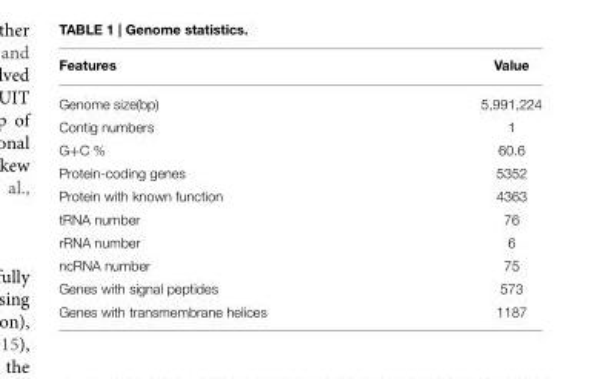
<table><thead><tr><td>Features</td><td>Value</td></tr></thead><tbody><tr><td>Genome size(bp)</td><td>5,991,224</td></tr><tr><td>Contig numbers</td><td>1</td></tr><tr><td>G+C %</td><td>60.6</td></tr><tr><td>Protein-coding genes</td><td>5352</td></tr><tr><td>Protein with known function</td><td>4363</td></tr><tr><td>tRNA number</td><td>76</td></tr><tr><td>rRNA number</td><td>6</td></tr><tr><td>ncRNA number</td><td>75</td></tr><tr><td>Genes with signal peptides</td><td>573</td></tr><tr><td>Genes with transmembrane helices</td><td>1187</td></tr></tbody></table>